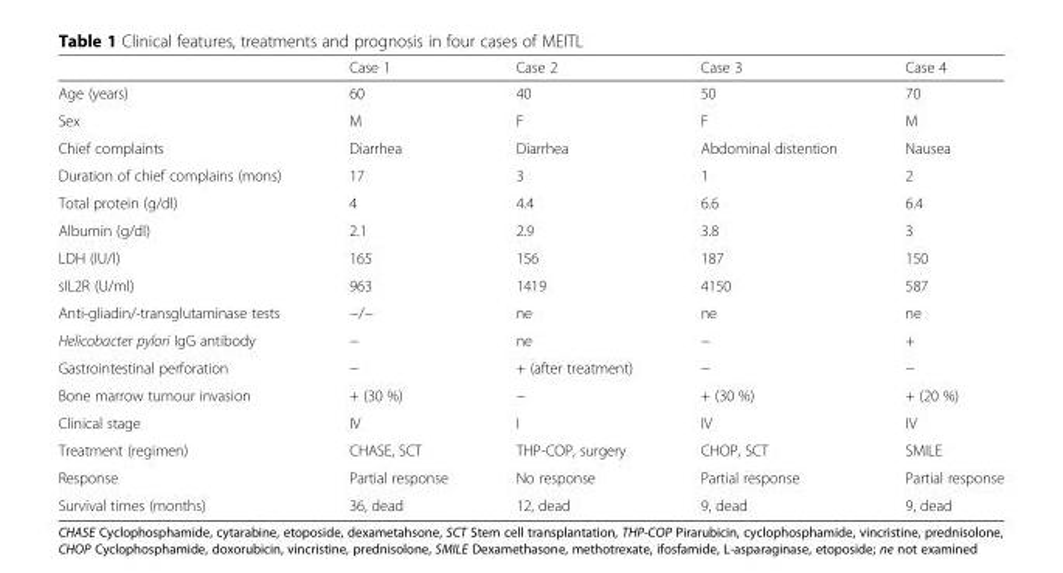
<table><thead><tr><td></td><td>Case 1</td><td>Case 2</td><td>Case 3</td><td>Case 4</td></tr></thead><tbody><tr><td>Age (years)</td><td>60</td><td>40</td><td>50</td><td>70</td></tr><tr><td>Sex</td><td>M</td><td>F</td><td>F</td><td>M</td></tr><tr><td>Chief complaints</td><td>Diarrhea</td><td>Diarrhea</td><td>Abdominal distention</td><td>Nausea</td></tr><tr><td>Duration of chief complains (mons)</td><td>17</td><td>3</td><td>1</td><td>2</td></tr><tr><td>Total protein (g/dl)</td><td>4</td><td>4.4</td><td>6.6</td><td>6.4</td></tr><tr><td>Albumin (g/dl)</td><td>2.1</td><td>2.9</td><td>3.8</td><td>3</td></tr><tr><td>LDH (IU/l)</td><td>165</td><td>156</td><td>187</td><td>150</td></tr><tr><td>sIL2R (U/ml)</td><td>963</td><td>1419</td><td>4150</td><td>587</td></tr><tr><td>Anti-gliadin/-transglutaminase tests</td><td>−/−</td><td>ne</td><td>ne</td><td>ne</td></tr><tr><td>Helicobacter pylori IgG antibody</td><td>−</td><td>ne</td><td>−</td><td>+</td></tr><tr><td>Gastrointestinal perforation</td><td>−</td><td>+ (after treatment)</td><td>−</td><td>−</td></tr><tr><td>Bone marrow tumour invasion</td><td>+ (30 %)</td><td>−</td><td>+ (30 %)</td><td>+ (20 %)</td></tr><tr><td>Clinical stage</td><td>IV</td><td>I</td><td>IV</td><td>IV</td></tr><tr><td>Treatment (regimen)</td><td>CHASE, SCT</td><td>THP-COP, surgery</td><td>CHOP, SCT</td><td>SMILE</td></tr><tr><td>Response</td><td>Partial response</td><td>No response</td><td>Partial response</td><td>Partial response</td></tr><tr><td>Survival times (months)</td><td>36, dead</td><td>12, dead</td><td>9, dead</td><td>9, dead</td></tr></tbody></table>